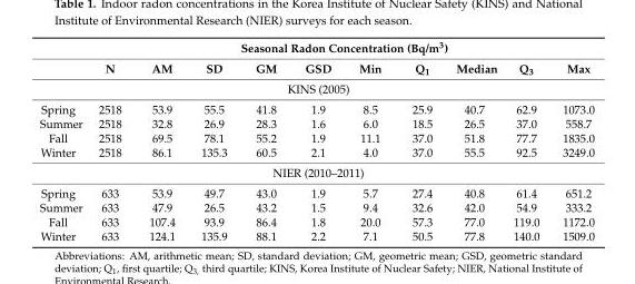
<table><thead><tr><td rowspan="2"></td><td colspan="10">Seasonal Radon Concentration (Bq/m<sup>3</sup>)</td></tr><tr><td>N</td><td>AM</td><td>SD</td><td>GM</td><td>GSD</td><td>Min</td><td>Q<sub>1</sub></td><td>Median</td><td>Q<sub>3</sub></td><td>Max</td></tr></thead><tbody><tr><td colspan="11">KINS (2005)</td></tr><tr><td>Spring</td><td>2518</td><td>53.9</td><td>55.5</td><td>41.8</td><td>1.9</td><td>8.5</td><td>25.9</td><td>40.7</td><td>62.9</td><td>1073.0</td></tr><tr><td>Summer</td><td>2518</td><td>32.8</td><td>26.9</td><td>28.3</td><td>1.6</td><td>6.0</td><td>18.5</td><td>26.5</td><td>37.0</td><td>558.7</td></tr><tr><td>Fall</td><td>2518</td><td>69.5</td><td>78.1</td><td>55.2</td><td>1.9</td><td>11.1</td><td>37.0</td><td>51.8</td><td>77.7</td><td>1835.0</td></tr><tr><td>Winter</td><td>2518</td><td>86.1</td><td>135.3</td><td>60.5</td><td>2.1</td><td>4.0</td><td>37.0</td><td>55.5</td><td>92.5</td><td>3249.0</td></tr><tr><td colspan="11">NIER (2010–2011)</td></tr><tr><td>Spring</td><td>633</td><td>53.9</td><td>49.7</td><td>43.0</td><td>1.9</td><td>5.7</td><td>27.4</td><td>40.8</td><td>61.4</td><td>651.2</td></tr><tr><td>Summer</td><td>633</td><td>47.9</td><td>26.5</td><td>43.2</td><td>1.5</td><td>9.4</td><td>32.6</td><td>42.0</td><td>54.9</td><td>333.2</td></tr><tr><td>Fall</td><td>633</td><td>107.4</td><td>93.9</td><td>86.4</td><td>1.8</td><td>20.0</td><td>57.3</td><td>77.0</td><td>119.0</td><td>1172.0</td></tr><tr><td>Winter</td><td>633</td><td>124.1</td><td>135.9</td><td>88.1</td><td>2.2</td><td>7.1</td><td>50.5</td><td>77.8</td><td>140.0</td><td>1509.0</td></tr></tbody></table>